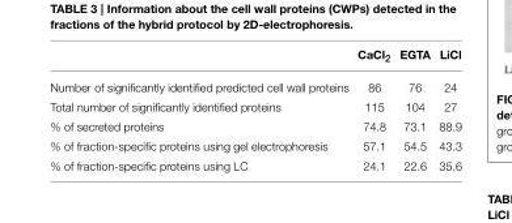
<table><thead><tr><td></td><td>CaCl<sub>2</sub></td><td>EGTA</td><td>LiCl</td></tr></thead><tbody><tr><td>Number of significantly identified predicted cell wall proteins</td><td>86</td><td>76</td><td>24</td></tr><tr><td>Total number of significantly identified proteins</td><td>115</td><td>104</td><td>27</td></tr><tr><td>% of secreted proteins</td><td>74.8</td><td>73.1</td><td>88.9</td></tr><tr><td>% of fraction-specific proteins using gel electrophoresis</td><td>57.1</td><td>54.5</td><td>43.3</td></tr><tr><td>% of fraction-specific proteins using LC</td><td>24.1</td><td>22.6</td><td>35.6</td></tr></tbody></table>